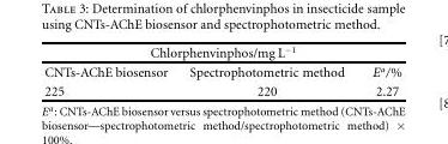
<table><thead><tr><td colspan="3">Chlorphenvinphos/mg L<sup>−1</sup></td></tr><tr><td>CNTs-AChE biosensor</td><td>Spectrophotometric method</td><td>E<sup>a</sup>/%</td></tr></thead><tbody><tr><td>225</td><td>220</td><td>2.27</td></tr></tbody></table>